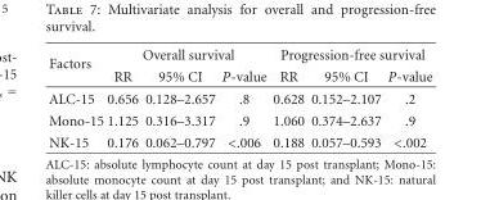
<table><thead><tr><td rowspan="2">Factors</td><td colspan="3">Overall survival</td><td colspan="3">Progression-free survival</td></tr><tr><td>RR</td><td>95% CI</td><td>P-value</td><td>RR</td><td>95% CI</td><td>P-value</td></tr></thead><tbody><tr><td>ALC-15</td><td>0.656</td><td>0.128–2.657</td><td>.8</td><td>0.628</td><td>0.152–2.107</td><td>.2</td></tr><tr><td>Mono-15</td><td>1.125</td><td>0.316–3.317</td><td>.9</td><td>1.060</td><td>0.374–2.637</td><td>.9</td></tr><tr><td>NK-15</td><td>0.176</td><td>0.062–0.797</td><td>&lt;.006</td><td>0.188</td><td>0.057–0.593</td><td>&lt;.002</td></tr></tbody></table>